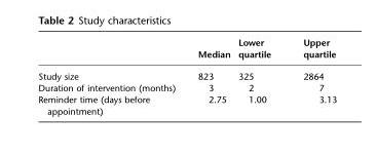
<table><thead><tr><td></td><td>Median</td><td>Lower quartile</td><td>Upper quartile</td></tr></thead><tbody><tr><td>Study size</td><td>823</td><td>325</td><td>2864</td></tr><tr><td>Duration of intervention (months)</td><td>3</td><td>2</td><td>7</td></tr><tr><td>Reminder time (days before appointment)</td><td>2.75</td><td>1.00</td><td>3.13</td></tr></tbody></table>